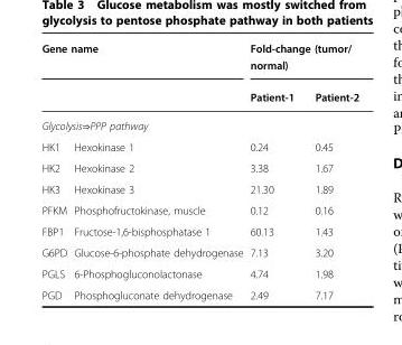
<table><thead><tr><td colspan="2">Gene name</td><td colspan="2">Fold-change (tumor/ normal)</td></tr><tr><td></td><td></td><td>Patient-1</td><td>Patient-2</td></tr></thead><tbody><tr><td colspan="4">Glycolysis⇒PPP pathway</td></tr><tr><td>HK1</td><td>Hexokinase 1</td><td>0.24</td><td>0.45</td></tr><tr><td>HK2</td><td>Hexokinase 2</td><td>3.38</td><td>1.67</td></tr><tr><td>HK3</td><td>Hexokinase 3</td><td>21.30</td><td>1.89</td></tr><tr><td>PFKM</td><td>Phosphofructokinase, muscle</td><td>0.12</td><td>0.16</td></tr><tr><td>FBP1</td><td>Fructose-1,6-bisphosphatase 1</td><td>60.13</td><td>1.43</td></tr><tr><td>G6PD</td><td>Glucose-6-phosphate dehydrogenase</td><td>7.13</td><td>3.20</td></tr><tr><td>PGLS</td><td>6-Phosphogluconolactonase</td><td>4.74</td><td>1.98</td></tr><tr><td>PGD</td><td>Phosphogluconate dehydrogenase</td><td>2.49</td><td>7.17</td></tr></tbody></table>